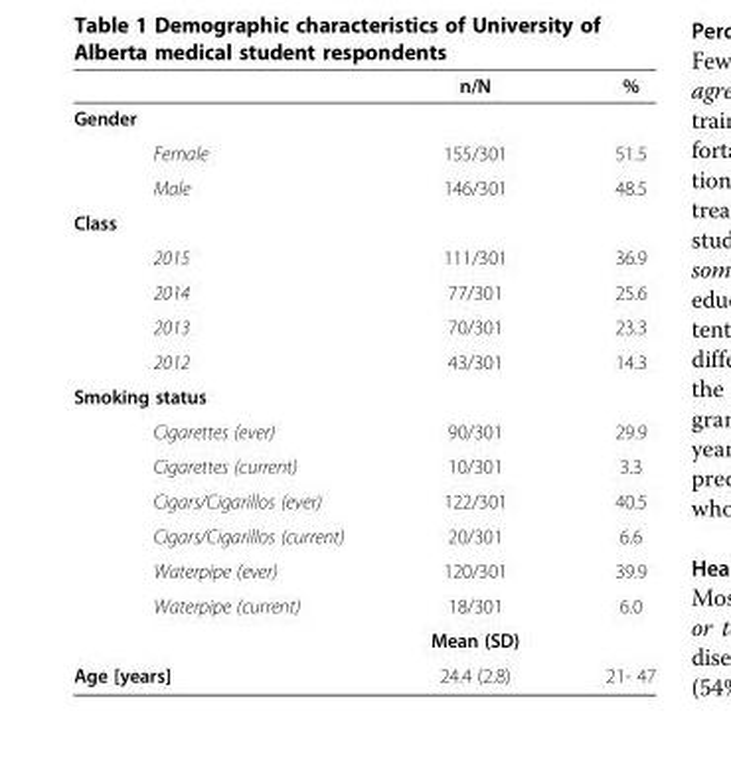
<table><thead><tr><td></td><td>n/N</td><td>%</td></tr></thead><tbody><tr><td colspan="3">Gender</td></tr><tr><td>Female</td><td>155/301</td><td>51.5</td></tr><tr><td>Male</td><td>146/301</td><td>48.5</td></tr><tr><td colspan="3">Class</td></tr><tr><td>2015</td><td>111/301</td><td>36.9</td></tr><tr><td>2014</td><td>77/301</td><td>25.6</td></tr><tr><td>2013</td><td>70/301</td><td>23.3</td></tr><tr><td>2012</td><td>43/301</td><td>14.3</td></tr><tr><td colspan="3">Smoking status</td></tr><tr><td>Cigarettes (ever)</td><td>90/301</td><td>29.9</td></tr><tr><td>Cigarettes (current)</td><td>10/301</td><td>3.3</td></tr><tr><td>Cigars/Cigarillos (ever)</td><td>122/301</td><td>40.5</td></tr><tr><td>Cigars/Cigarillos (current)</td><td>20/301</td><td>6.6</td></tr><tr><td>Waterpipe (ever)</td><td>120/301</td><td>39.9</td></tr><tr><td rowspan="2">Waterpipe (current)</td><td>18/301</td><td>6.0</td></tr><tr><td>Mean (SD)</td><td></td></tr><tr><td>Age [years]</td><td>24.4 (2.8)</td><td>21- 47</td></tr></tbody></table>